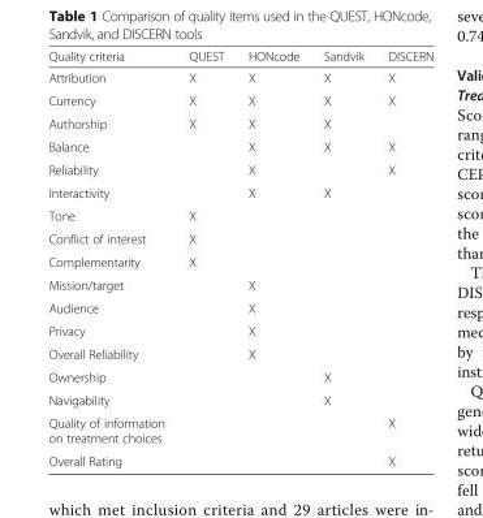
<table><thead><tr><td>Quality criteria</td><td>QUEST</td><td>HONcode</td><td>Sandvik</td><td>DISCERN</td></tr></thead><tbody><tr><td>Attribution</td><td>X</td><td>X</td><td>X</td><td>X</td></tr><tr><td>Currency</td><td>X</td><td>X</td><td>X</td><td>X</td></tr><tr><td>Authorship</td><td>X</td><td>X</td><td>X</td><td></td></tr><tr><td>Balance</td><td></td><td>X</td><td>X</td><td>X</td></tr><tr><td>Reliability</td><td></td><td>X</td><td></td><td>X</td></tr><tr><td>Interactivity</td><td></td><td>X</td><td>X</td><td></td></tr><tr><td>Tone</td><td>X</td><td></td><td></td><td></td></tr><tr><td>Conflict of interest</td><td>X</td><td></td><td></td><td></td></tr><tr><td>Complementarity</td><td>X</td><td></td><td></td><td></td></tr><tr><td>Mission/target</td><td></td><td>X</td><td></td><td></td></tr><tr><td>Audience</td><td></td><td>X</td><td></td><td></td></tr><tr><td>Privacy</td><td></td><td>X</td><td></td><td></td></tr><tr><td>Overall Reliability</td><td></td><td>X</td><td></td><td></td></tr><tr><td>Ownership</td><td></td><td></td><td>X</td><td></td></tr><tr><td>Navigability</td><td></td><td></td><td>X</td><td></td></tr><tr><td>Quality of information on treatment choices</td><td></td><td></td><td></td><td>X</td></tr><tr><td>Overall Rating</td><td></td><td></td><td></td><td>X</td></tr></tbody></table>